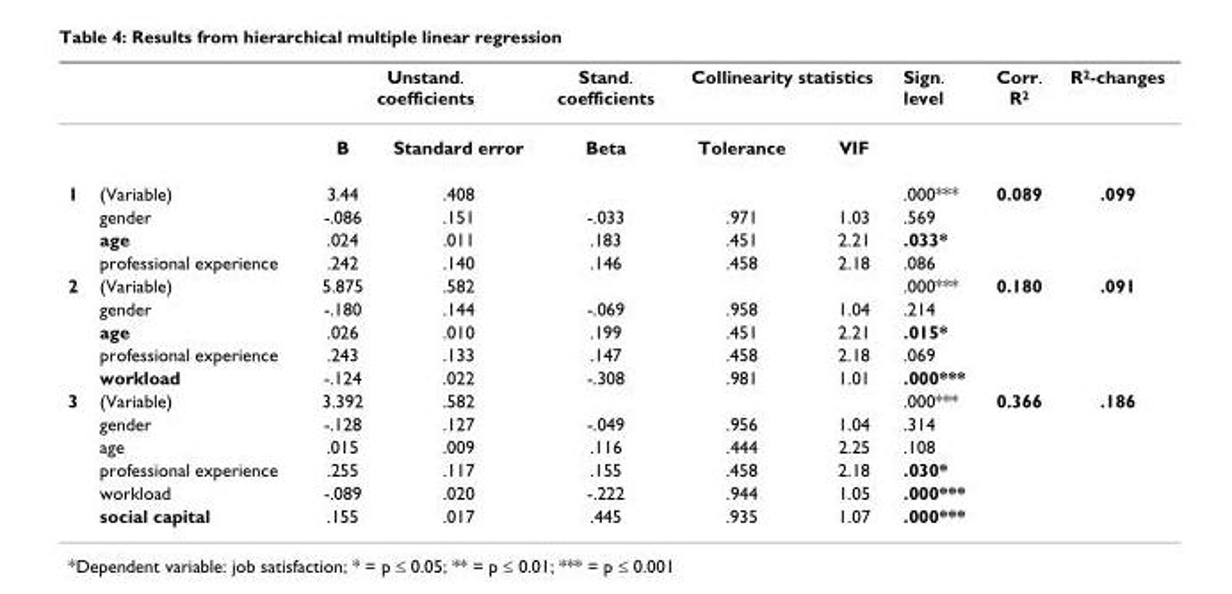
<table><thead><tr><td rowspan="2"></td><td rowspan="2"></td><td colspan="2">Unstand. coefficients</td><td rowspan="2">Stand. coefficients Beta</td><td colspan="2">Collinearity statistics</td><td rowspan="2">Sign. level</td><td rowspan="2">Corr. R<sup>2</sup></td><td rowspan="2">R2-changes</td></tr><tr><td>B</td><td>Standard error</td><td>Tolerance</td><td>VIF</td></tr></thead><tbody><tr><td rowspan="4">1</td><td>(Variable)</td><td>3.44</td><td>.408</td><td></td><td></td><td></td><td>.000***</td><td>0.089</td><td>.099</td></tr><tr><td>gender</td><td>-.086</td><td>.151</td><td>-.033</td><td>.971</td><td>1.03</td><td>.569</td><td></td><td></td></tr><tr><td>age</td><td>.024</td><td>.011</td><td>.183</td><td>.451</td><td>2.21</td><td>.033*</td><td></td><td></td></tr><tr><td>professional experience</td><td>.242</td><td>.140</td><td>.146</td><td>.458</td><td>2.18</td><td>.086</td><td></td><td></td></tr><tr><td rowspan="5">2</td><td>(Variable)</td><td>5.875</td><td>.582</td><td></td><td></td><td></td><td>.000***</td><td>0.180</td><td>.091</td></tr><tr><td>gender</td><td>-.180</td><td>.144</td><td>-.069</td><td>.958</td><td>1.04</td><td>.214</td><td></td><td></td></tr><tr><td>age</td><td>.026</td><td>.010</td><td>.199</td><td>.451</td><td>2.21</td><td>.015*</td><td></td><td></td></tr><tr><td>professional experience</td><td>.243</td><td>.133</td><td>.147</td><td>.458</td><td>2.18</td><td>.069</td><td></td><td></td></tr><tr><td>workload</td><td>-.124</td><td>.022</td><td>-.308</td><td>.981</td><td>1.01</td><td>.000***</td><td></td><td></td></tr><tr><td rowspan="6">3</td><td>(Variable)</td><td>3.392</td><td>.582</td><td></td><td></td><td></td><td>.000***</td><td>0.366</td><td>.186</td></tr><tr><td>gender</td><td>-.128</td><td>.127</td><td>-.049</td><td>.956</td><td>1.04</td><td>.314</td><td></td><td></td></tr><tr><td>age</td><td>.015</td><td>.009</td><td>.116</td><td>.444</td><td>2.25</td><td>.108</td><td></td><td></td></tr><tr><td>professional experience</td><td>.255</td><td>.117</td><td>.155</td><td>.458</td><td>2.18</td><td>.030*</td><td></td><td></td></tr><tr><td>workload</td><td>-.089</td><td>.020</td><td>-.222</td><td>.944</td><td>1.05</td><td>.000***</td><td></td><td></td></tr><tr><td>social capital</td><td>.155</td><td>.017</td><td>.445</td><td>.935</td><td>1.07</td><td>.000***</td><td></td><td></td></tr></tbody></table>